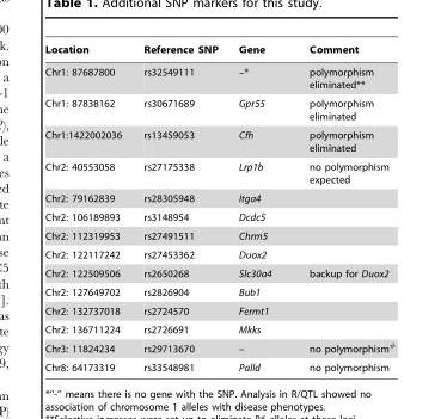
<table><thead><tr><td>Location</td><td>Reference SNP</td><td>Gene</td><td>Comment</td></tr></thead><tbody><tr><td>Chr1: 87687800</td><td>rs32549111</td><td>–*</td><td>polymorphism eliminated**</td></tr><tr><td>Chr1: 87838162</td><td>rs30671689</td><td>Gpr55</td><td>polymorphism eliminated</td></tr><tr><td>Chr1:1422002036</td><td>rs13459053</td><td>Cfh</td><td>polymorphism eliminated</td></tr><tr><td>Chr2: 40553058</td><td>rs27175338</td><td>Lrp1b</td><td>no polymorphism expected</td></tr><tr><td>Chr2: 79162839</td><td>rs28305948</td><td>Itga4</td><td></td></tr><tr><td>Chr2: 106189893</td><td>rs3148954</td><td>Dcdc5</td><td></td></tr><tr><td>Chr2: 112319953</td><td>rs27491511</td><td>Chrm5</td><td></td></tr><tr><td>Chr2: 122117242</td><td>rs27453362</td><td>Duox2</td><td></td></tr><tr><td>Chr2: 122509506</td><td>rs2650268</td><td>Slc30a4</td><td>backup for Duox2</td></tr><tr><td>Chr2: 127649702</td><td>rs2826904</td><td>Bub1</td><td></td></tr><tr><td>Chr2: 132737018</td><td>rs2724570</td><td>Fermt1</td><td></td></tr><tr><td>Chr2: 136711224</td><td>rs2726691</td><td>Mkks</td><td></td></tr><tr><td>Chr3: 11824234</td><td>rs29713670</td><td>–</td><td>no polymorphism#</td></tr><tr><td>Chr8: 64173319</td><td>rs33548981</td><td>Palld</td><td>no polymorphism</td></tr></tbody></table>